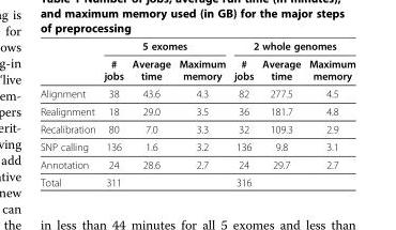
<table><thead><tr><td rowspan="2"></td><td colspan="3">5 exomes</td><td colspan="3">2 whole genomes</td></tr><tr><td># jobs</td><td>Average time</td><td>Maximum memory</td><td># jobs</td><td>Average time</td><td>Maximum memory</td></tr></thead><tbody><tr><td>Alignment</td><td>38</td><td>43.6</td><td>4.3</td><td>82</td><td>277.5</td><td>4.5</td></tr><tr><td>Realignment</td><td>18</td><td>29.0</td><td>3.5</td><td>36</td><td>181.7</td><td>4.8</td></tr><tr><td>Recalibration</td><td>80</td><td>7.0</td><td>3.3</td><td>32</td><td>109.3</td><td>2.9</td></tr><tr><td>SNP calling</td><td>136</td><td>1.6</td><td>3.2</td><td>136</td><td>9.8</td><td>3.1</td></tr><tr><td>Annotation</td><td>24</td><td>28.6</td><td>2.7</td><td>24</td><td>29.7</td><td>2.7</td></tr><tr><td>Total</td><td>311</td><td></td><td></td><td>316</td><td></td><td></td></tr></tbody></table>